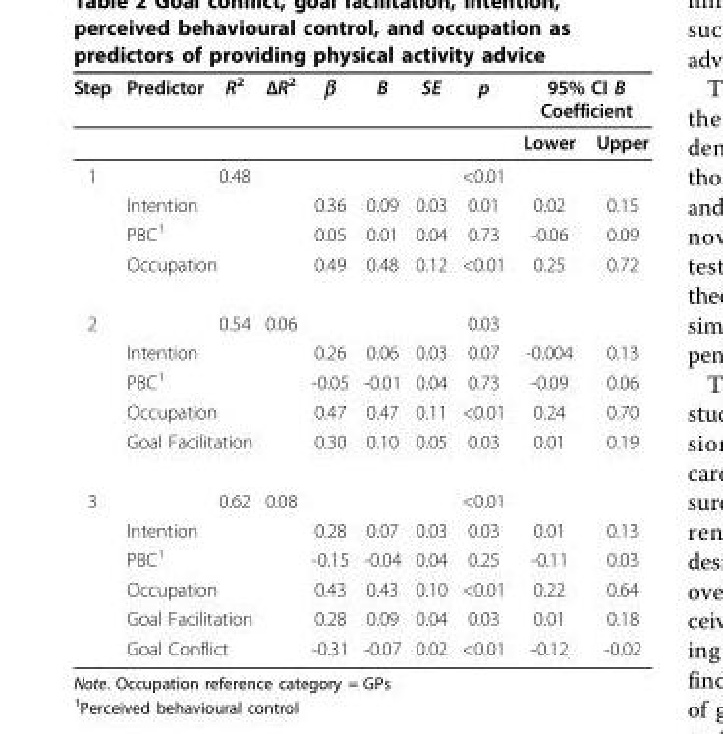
<table><thead><tr><td rowspan="2">Step</td><td rowspan="2">Predictor</td><td rowspan="2">R<sup>2</sup></td><td rowspan="2">ΔR<sup>2</sup></td><td rowspan="2">β</td><td rowspan="2">B</td><td rowspan="2">SE</td><td rowspan="2">p</td><td colspan="2">95% CI B Coefficient</td></tr><tr><td>Lower</td><td>Upper</td></tr></thead><tbody><tr><td rowspan="4">1</td><td></td><td>0.48</td><td></td><td></td><td></td><td></td><td>&lt;0.01</td><td></td><td></td></tr><tr><td colspan="3">Intention</td><td>0.36</td><td>0.09</td><td>0.03</td><td>0.01</td><td>0.02</td><td>0.15</td></tr><tr><td colspan="3">PBC<sup>1</sup></td><td>0.05</td><td>0.01</td><td>0.04</td><td>0.73</td><td>-0.06</td><td>0.09</td></tr><tr><td colspan="3">Occupation</td><td>0.49</td><td>0.48</td><td>0.12</td><td>&lt;0.01</td><td>0.25</td><td>0.72</td></tr><tr><td rowspan="5">2</td><td></td><td>0.54</td><td>0.06</td><td></td><td></td><td></td><td>0.03</td><td></td><td></td></tr><tr><td colspan="3">Intention</td><td>0.26</td><td>0.06</td><td>0.03</td><td>0.07</td><td>-0.004</td><td>0.13</td></tr><tr><td colspan="3">PBC<sup>1</sup></td><td>-0.05</td><td>-0.01</td><td>0.04</td><td>0.73</td><td>-0.09</td><td>0.06</td></tr><tr><td colspan="3">Occupation</td><td>0.47</td><td>0.47</td><td>0.11</td><td>&lt;0.01</td><td>0.24</td><td>0.70</td></tr><tr><td colspan="3">Goal Facilitation</td><td>0.30</td><td>0.10</td><td>0.05</td><td>0.03</td><td>0.01</td><td>0.19</td></tr><tr><td rowspan="6">3</td><td></td><td>0.62</td><td>0.08</td><td></td><td></td><td></td><td>&lt;0.01</td><td></td><td></td></tr><tr><td colspan="3">Intention</td><td>0.28</td><td>0.07</td><td>0.03</td><td>0.03</td><td>0.01</td><td>0.13</td></tr><tr><td colspan="3">PBC<sup>1</sup></td><td>-0.15</td><td>-0.04</td><td>0.04</td><td>0.25</td><td>-0.11</td><td>0.03</td></tr><tr><td colspan="3">Occupation</td><td>0.43</td><td>0.43</td><td>0.10</td><td>&lt;0.01</td><td>0.22</td><td>0.64</td></tr><tr><td colspan="3">Goal Facilitation</td><td>0.28</td><td>0.09</td><td>0.04</td><td>0.03</td><td>0.01</td><td>0.18</td></tr><tr><td colspan="3">Goal Conflict</td><td>-0.31</td><td>-0.07</td><td>0.02</td><td>&lt;0.01</td><td>-0.12</td><td>-0.02</td></tr></tbody></table>